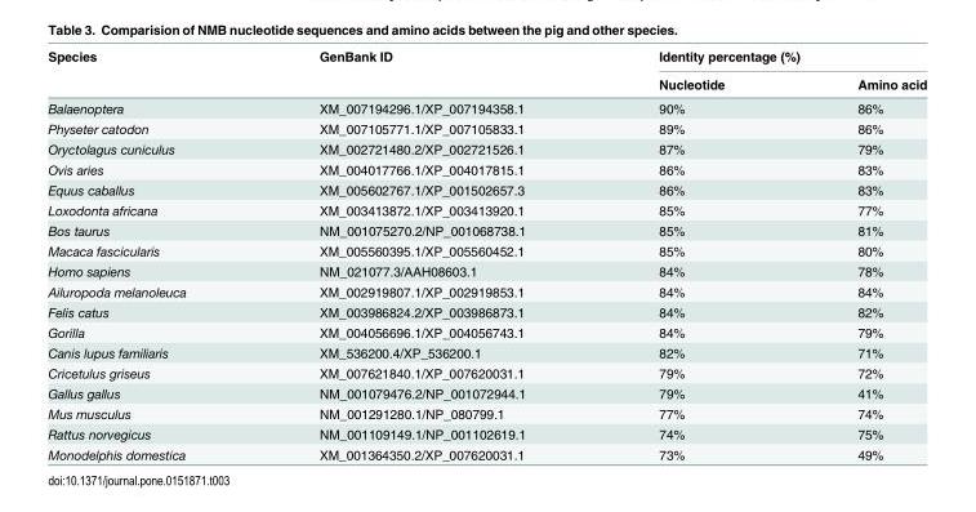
<table><thead><tr><td rowspan="2">Species</td><td rowspan="2">GenBank ID</td><td colspan="2">Identity percentage (%)</td></tr><tr><td>Nucleotide</td><td>Amino acid</td></tr></thead><tbody><tr><td>Balaenoptera</td><td>XM_007194296.1/XP_007194358.1</td><td>90%</td><td>86%</td></tr><tr><td>Physeter catodon</td><td>XM_007105771.1/XP_007105833.1</td><td>89%</td><td>86%</td></tr><tr><td>Oryctolagus cuniculus</td><td>XM_002721480.2/XP_002721526.1</td><td>87%</td><td>79%</td></tr><tr><td>Ovis aries</td><td>XM_004017766.1/XP_004017815.1</td><td>86%</td><td>83%</td></tr><tr><td>Equus caballus</td><td>XM_005602767.1/XP_001502657.3</td><td>86%</td><td>83%</td></tr><tr><td>Loxodonta africana</td><td>XM_003413872.1/XP_003413920.1</td><td>85%</td><td>77%</td></tr><tr><td>Bos taurus</td><td>NM_001075270.2/NP_001068738.1</td><td>85%</td><td>81%</td></tr><tr><td>Macaca fascicularis</td><td>XM_005560395.1/XP_005560452.1</td><td>85%</td><td>80%</td></tr><tr><td>Homo sapiens</td><td>NM_021077.3/AAH08603.1</td><td>84%</td><td>78%</td></tr><tr><td>Ailuropoda melanoleuca</td><td>XM_002919807.1/XP_002919853.1</td><td>84%</td><td>84%</td></tr><tr><td>Felis catus</td><td>XM_003986824.2/XP_003986873.1</td><td>84%</td><td>82%</td></tr><tr><td>Gorilla</td><td>XM_004056696.1/XP_004056743.1</td><td>84%</td><td>79%</td></tr><tr><td>Canis lupus familiaris</td><td>XM_536200.4/XP_536200.1</td><td>82%</td><td>71%</td></tr><tr><td>Cricetulus griseus</td><td>XM_007621840.1/XP_007620031.1</td><td>79%</td><td>72%</td></tr><tr><td>Gallus gallus</td><td>NM_001079476.2/NP_001072944.1</td><td>79%</td><td>41%</td></tr><tr><td>Mus musculus</td><td>NM_001291280.1/NP_080799.1</td><td>77%</td><td>74%</td></tr><tr><td>Rattus norvegicus</td><td>NM_001109149.1/NP_001102619.1</td><td>74%</td><td>75%</td></tr><tr><td>Monodelphis domestica</td><td>XM_001364350.2/XP_007620031.1</td><td>73%</td><td>49%</td></tr></tbody></table>